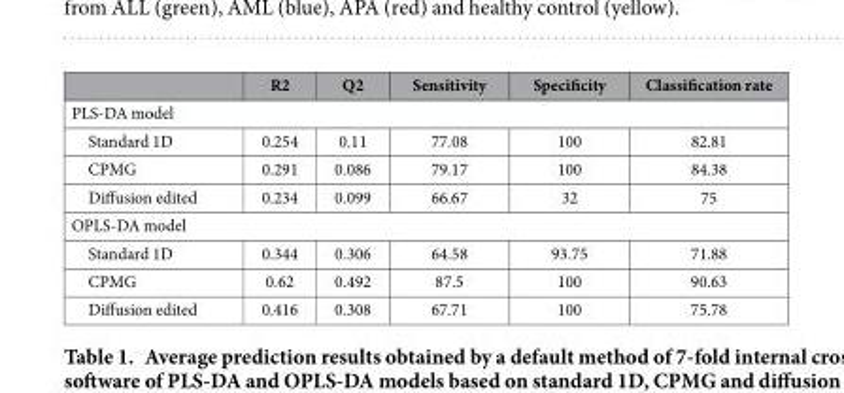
<table><thead><tr><td></td><td>R2</td><td>Q2</td><td>Sensitivity</td><td>Specificity</td><td>Classification rate</td></tr></thead><tbody><tr><td colspan="6">PLS-DA model</td></tr><tr><td>Standard 1D</td><td>0.254</td><td>0.11</td><td>77.08</td><td>100</td><td>82.81</td></tr><tr><td>CPMG</td><td>0.291</td><td>0.086</td><td>79.17</td><td>100</td><td>84.38</td></tr><tr><td>Diffusion edited</td><td>0.234</td><td>0.099</td><td>66.67</td><td>32</td><td>75</td></tr><tr><td colspan="6">OPLS-DA model</td></tr><tr><td>Standard 1D</td><td>0.344</td><td>0.306</td><td>64.58</td><td>93.75</td><td>71.88</td></tr><tr><td>CPMG</td><td>0.62</td><td>0.492</td><td>87.5</td><td>100</td><td>90.63</td></tr><tr><td>Diffusion edited</td><td>0.416</td><td>0.308</td><td>67.71</td><td>100</td><td>75.78</td></tr></tbody></table>